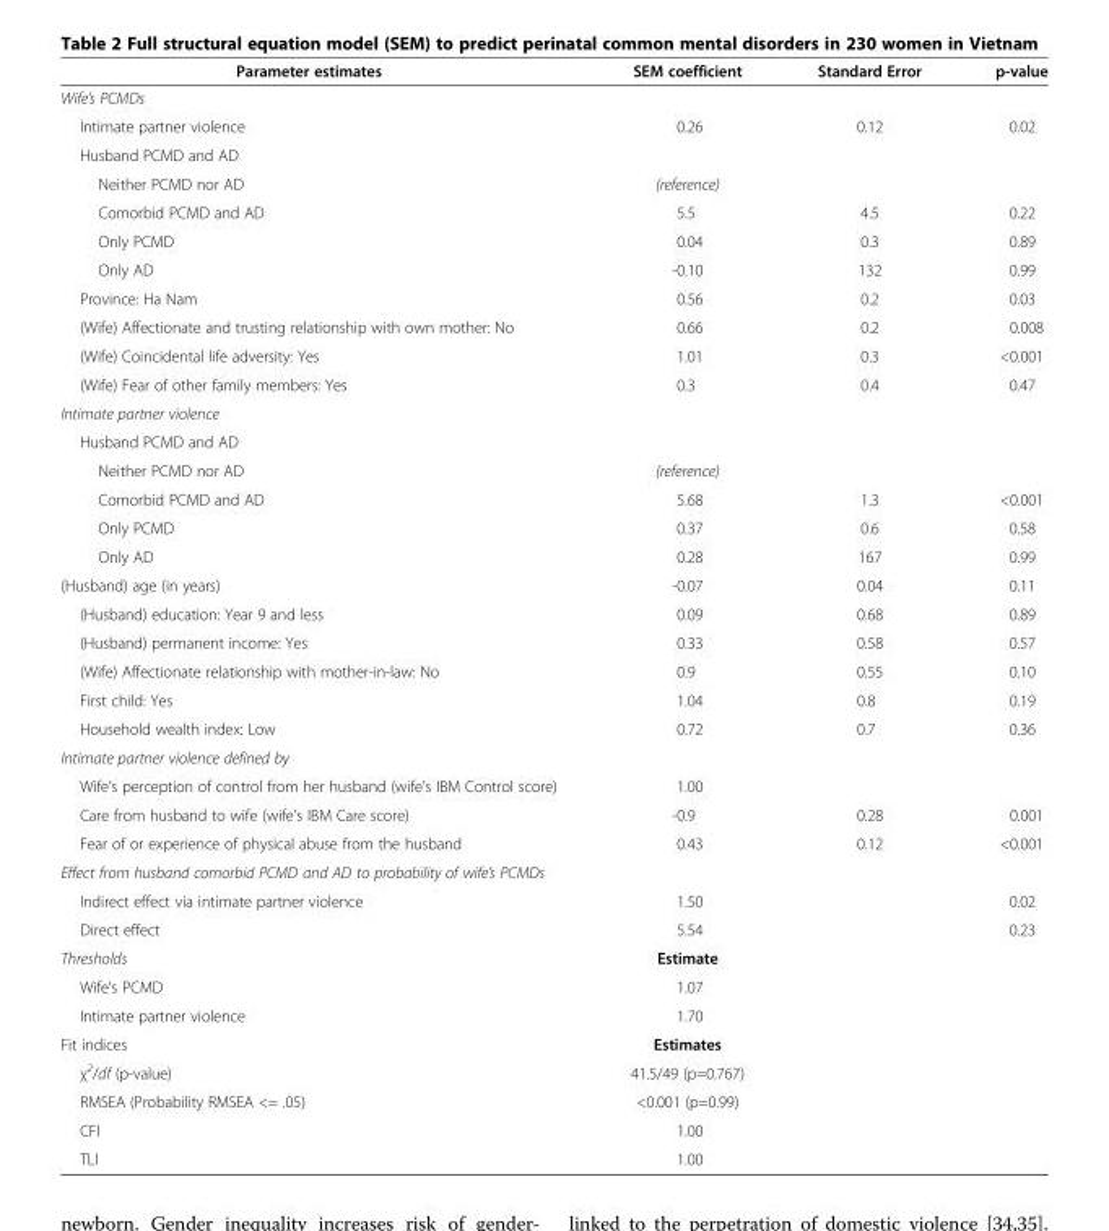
<table><thead><tr><td>Parameter estimates</td><td>SEM coefficient</td><td>Standard Error</td><td>p-value</td></tr></thead><tbody><tr><td colspan="4">Wife’s PCMDs</td></tr><tr><td>Intimate partner violence</td><td>0.26</td><td>0.12</td><td>0.02</td></tr><tr><td colspan="4">Husband PCMD and AD</td></tr><tr><td>Neither PCMD nor AD</td><td>(reference)</td><td></td><td></td></tr><tr><td>Comorbid PCMD and AD</td><td>5.5</td><td>4.5</td><td>0.22</td></tr><tr><td>Only PCMD</td><td>0.04</td><td>0.3</td><td>0.89</td></tr><tr><td>Only AD</td><td>-0.10</td><td>132</td><td>0.99</td></tr><tr><td>Province: Ha Nam</td><td>0.56</td><td>0.2</td><td>0.03</td></tr><tr><td>(Wife) Affectionate and trusting relationship with own mother: No</td><td>0.66</td><td>0.2</td><td>0.008</td></tr><tr><td>(Wife) Coincidental life adversity: Yes</td><td>1.01</td><td>0.3</td><td>&lt;0.001</td></tr><tr><td>(Wife) Fear of other family members: Yes</td><td>0.3</td><td>0.4</td><td>0.47</td></tr><tr><td colspan="4">Intimate partner violence</td></tr><tr><td colspan="4">Husband PCMD and AD</td></tr><tr><td>Neither PCMD nor AD</td><td>(reference)</td><td></td><td></td></tr><tr><td>Comorbid PCMD and AD</td><td>5.68</td><td>1.3</td><td>&lt;0.001</td></tr><tr><td>Only PCMD</td><td>0.37</td><td>0.6</td><td>0.58</td></tr><tr><td>Only AD</td><td>0.28</td><td>167</td><td>0.99</td></tr><tr><td>(Husband) age (in years)</td><td>-0.07</td><td>0.04</td><td>0.11</td></tr><tr><td>(Husband) education: Year 9 and less</td><td>0.09</td><td>0.68</td><td>0.89</td></tr><tr><td>(Husband) permanent income: Yes</td><td>0.33</td><td>0.58</td><td>0.57</td></tr><tr><td>(Wife) Affectionate relationship with mother-in-law: No</td><td>0.9</td><td>0.55</td><td>0.10</td></tr><tr><td>First child: Yes</td><td>1.04</td><td>0.8</td><td>0.19</td></tr><tr><td>Household wealth index: Low</td><td>0.72</td><td>0.7</td><td>0.36</td></tr><tr><td colspan="4">Intimate partner violence defined by</td></tr><tr><td>Wife’s perception of control from her husband (wife’s IBM Control score)</td><td>1.00</td><td></td><td></td></tr><tr><td>Care from husband to wife (wife’s IBM Care score)</td><td>-0.9</td><td>0.28</td><td>0.001</td></tr><tr><td>Fear of or experience of physical abuse from the husband</td><td>0.43</td><td>0.12</td><td>&lt;0.001</td></tr><tr><td colspan="4">Effect from husband comorbid PCMD and AD to probability of wife’s PCMDs</td></tr><tr><td>Indirect effect via intimate partner violence</td><td>1.50</td><td></td><td>0.02</td></tr><tr><td>Direct effect</td><td>5.54</td><td></td><td>0.23</td></tr><tr><td>Thresholds</td><td>Estimate</td><td></td><td></td></tr><tr><td>Wife’s PCMD</td><td>1.07</td><td></td><td></td></tr><tr><td>Intimate partner violence</td><td>1.70</td><td></td><td></td></tr><tr><td>Fit indices</td><td>Estimates</td><td></td><td></td></tr><tr><td>χ<sup>2</sup>/df (p-value)</td><td>41.5/49 (p=0.767)</td><td></td><td></td></tr><tr><td>RMSEA (Probability RMSEA &lt;= .05)</td><td>&lt;0.001 (p=0.99)</td><td></td><td></td></tr><tr><td>CFI</td><td>1.00</td><td></td><td></td></tr><tr><td>TLI</td><td>1.00</td><td></td><td></td></tr></tbody></table>